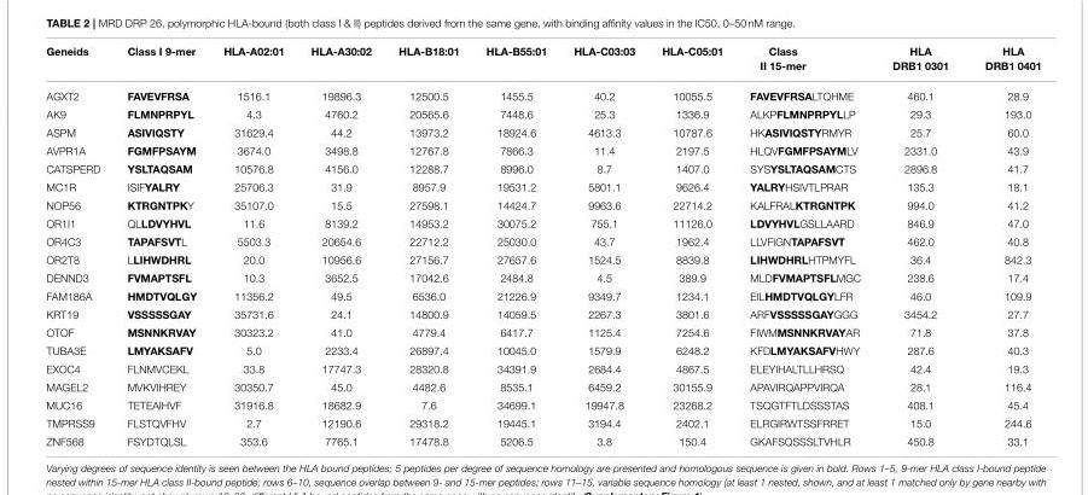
<table><thead><tr><td>Geneids</td><td>Class I 9-mer</td><td>HLA-A02:01</td><td>HLA-A30:02</td><td>HLA-B18:01</td><td>HLA-B55:01</td><td>HLA-C03:03</td><td>HLA-C05:01</td><td>Class II 15-mer</td><td>HLA DRB1 0301</td><td>HLA DRB1 0401</td></tr></thead><tbody><tr><td>AGXT2</td><td>FAVEVFRSA</td><td>1516.1</td><td>19896.3</td><td>12500.5</td><td>1455.5</td><td>40.2</td><td>10055.5</td><td>FAVEVFRSALTQHME</td><td>460.1</td><td>28.9</td></tr><tr><td>AK9</td><td>FLMNPRPYL</td><td>4.3</td><td>4760.2</td><td>20565.6</td><td>7448.6</td><td>25.3</td><td>1336.9</td><td>ALKPFLMNPRPYLLP</td><td>29.3</td><td>193.0</td></tr><tr><td>ASPM</td><td>ASIVIQSTY</td><td>31629.4</td><td>44.2</td><td>13973.2</td><td>18924.6</td><td>4613.3</td><td>10787.6</td><td>HKASIVIQSTYRMYR</td><td>25.7</td><td>60.0</td></tr><tr><td>AVPR1A</td><td>FGMFPSAYM</td><td>3674.0</td><td>3498.8</td><td>12767.8</td><td>7866.3</td><td>11.4</td><td>2197.5</td><td>HLQVFGMFPSAYMLV</td><td>2331.0</td><td>43.9</td></tr><tr><td>CATSPERD</td><td>YSLTAQSAM</td><td>10576.8</td><td>4156.0</td><td>12288.7</td><td>8996.0</td><td>8.7</td><td>1407.0</td><td>SYSYSLTAQSAMCTS</td><td>2896.8</td><td>41.7</td></tr><tr><td>MC1R</td><td>ISIFYALRY</td><td>25706.3</td><td>31.9</td><td>8957.9</td><td>19531.2</td><td>5801.1</td><td>9626.4</td><td>YALRYHSIVTLPRAR</td><td>135.3</td><td>18.1</td></tr><tr><td>NOP56</td><td>KTRGNTPKY</td><td>35107.0</td><td>15.5</td><td>27598.1</td><td>14424.7</td><td>9963.6</td><td>22714.2</td><td>KALFRALKTRGNTPK</td><td>994.0</td><td>41.2</td></tr><tr><td>OR1I1</td><td>QLLDVYHVL</td><td>11.6</td><td>8139.2</td><td>14953.2</td><td>30075.2</td><td>755.1</td><td>11126.0</td><td>LDVYHVLGSLLAARD</td><td>846.9</td><td>47.0</td></tr><tr><td>OR4C3</td><td>TAPAFSVTL</td><td>5503.3</td><td>20654.6</td><td>22712.2</td><td>25030.0</td><td>43.7</td><td>1962.4</td><td>LLVFIGNTAPAFSVT</td><td>462.0</td><td>40.8</td></tr><tr><td>OR2T8</td><td>LLIHWDHRL</td><td>20.0</td><td>10956.6</td><td>27156.7</td><td>27657.6</td><td>1524.5</td><td>8839.8</td><td>LIHWDHRLHTPMYFL</td><td>36.4</td><td>842.3</td></tr><tr><td>DENND3</td><td>FVMAPTSFL</td><td>10.3</td><td>3652.5</td><td>17042.6</td><td>2484.8</td><td>4.5</td><td>389.9</td><td>MLDFVMAPTSFLMGC</td><td>238.6</td><td>17.4</td></tr><tr><td>FAM186A</td><td>HMDTVQLGY</td><td>11356.2</td><td>49.5</td><td>6536.0</td><td>21226.9</td><td>9349.7</td><td>1234.1</td><td>EILHMDTVQLGYLFR</td><td>46.0</td><td>109.9</td></tr><tr><td>KRT19</td><td>VSSSSSGAY</td><td>35731.6</td><td>24.1</td><td>14800.9</td><td>14059.5</td><td>2267.3</td><td>3801.6</td><td>ARFVSSSSSGAYGGG</td><td>3454.2</td><td>27.7</td></tr><tr><td>OTOF</td><td>MSNNKRVAY</td><td>30323.2</td><td>41.0</td><td>4779.4</td><td>6417.7</td><td>1125.4</td><td>7254.6</td><td>FIWMMSNNKRVAYAR</td><td>71.8</td><td>37.8</td></tr><tr><td>TUBA3E</td><td>LMYAKSAFV</td><td>5.0</td><td>2233.4</td><td>26897.4</td><td>10045.0</td><td>1579.9</td><td>6248.2</td><td>KFDLMYAKSAFVHWY</td><td>287.6</td><td>40.3</td></tr><tr><td>EXOC4</td><td>FLNMVCEKL</td><td>33.8</td><td>17747.3</td><td>28320.8</td><td>34391.9</td><td>2684.4</td><td>4867.5</td><td>ELEYIHALTLLHRSQ</td><td>42.4</td><td>19.3</td></tr><tr><td>MAGEL2</td><td>MVKVIHREY</td><td>30350.7</td><td>45.0</td><td>4482.6</td><td>8535.1</td><td>6459.2</td><td>30155.9</td><td>APAVIRQAPPVIRQA</td><td>28.1</td><td>116.4</td></tr><tr><td>MUC16</td><td>TETEAIHVF</td><td>31916.8</td><td>18682.9</td><td>7.6</td><td>34699.1</td><td>19947.8</td><td>23268.2</td><td>TSQGTFTLDSSSTAS</td><td>408.1</td><td>45.4</td></tr><tr><td>TMPRSS9</td><td>FLSTQVFHV</td><td>2.7</td><td>12190.6</td><td>29318.2</td><td>19445.1</td><td>3194.4</td><td>2402.1</td><td>ELRGIRWTSSFRRET</td><td>15.0</td><td>244.6</td></tr><tr><td>ZNF568</td><td>FSYDTQLSL</td><td>353.6</td><td>7765.1</td><td>17478.8</td><td>5206.5</td><td>3.8</td><td>150.4</td><td>GKAFSQSSSLTVHLR</td><td>450.8</td><td>33.1</td></tr></tbody></table>